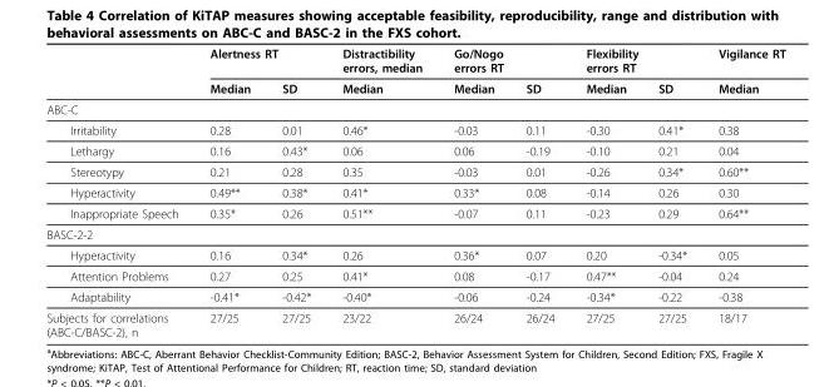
<table><thead><tr><td rowspan="2"></td><td colspan="2">Alertness RT</td><td rowspan="2">Distractibility errors, median Median</td><td colspan="2">Go/Nogo errors RT</td><td colspan="2">Flexibility errors RT</td><td rowspan="2">Vigilance RT Median</td></tr><tr><td>Median</td><td>SD</td><td>Median</td><td>SD</td><td>Median</td><td>SD</td></tr></thead><tbody><tr><td colspan="9">ABC-C</td></tr><tr><td>Irritability</td><td>0.28</td><td>0.01</td><td>0.46*</td><td>-0.03</td><td>0.11</td><td>-0.30</td><td>0.41*</td><td>0.38</td></tr><tr><td>Lethargy</td><td>0.16</td><td>0.43*</td><td>0.06</td><td>0.06</td><td>-0.19</td><td>-0.10</td><td>0.21</td><td>0.04</td></tr><tr><td>Stereotypy</td><td>0.21</td><td>0.28</td><td>0.35</td><td>-0.03</td><td>0.01</td><td>-0.26</td><td>0.34*</td><td>0.60**</td></tr><tr><td>Hyperactivity</td><td>0.49**</td><td>0.38*</td><td>0.41*</td><td>0.33*</td><td>0.08</td><td>-0.14</td><td>0.26</td><td>0.30</td></tr><tr><td>Inappropriate Speech</td><td>0.35*</td><td>0.26</td><td>0.51**</td><td>-0.07</td><td>0.11</td><td>-0.23</td><td>0.29</td><td>0.64**</td></tr><tr><td colspan="9">BASC-2-2</td></tr><tr><td>Hyperactivity</td><td>0.16</td><td>0.34*</td><td>0.26</td><td>0.36*</td><td>0.07</td><td>0.20</td><td>-0.34*</td><td>0.05</td></tr><tr><td>Attention Problems</td><td>0.27</td><td>0.25</td><td>0.41*</td><td>0.08</td><td>-0.17</td><td>0.47**</td><td>-0.04</td><td>0.24</td></tr><tr><td>Adaptability</td><td>-0.41*</td><td>-0.42*</td><td>-0.40*</td><td>-0.06</td><td>-0.24</td><td>-0.34*</td><td>-0.22</td><td>-0.38</td></tr><tr><td>Subjects for correlations (ABC-C/BASC-2), n</td><td>27/25</td><td>27/25</td><td>23/22</td><td>26/24</td><td>26/24</td><td>27/25</td><td>27/25</td><td>18/17</td></tr></tbody></table>